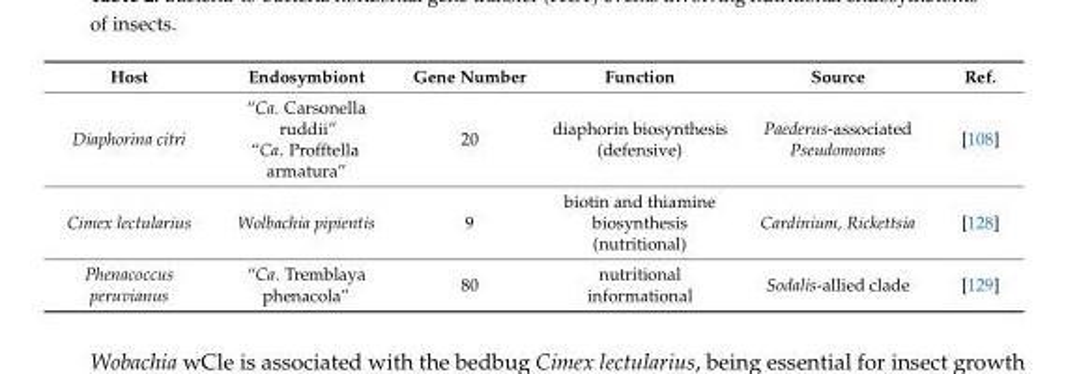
<table><thead><tr><td>Host</td><td>Endosymbiont</td><td>Gene Number</td><td>Function</td><td>Source</td><td>Ref.</td></tr></thead><tbody><tr><td>Diaphorina citri</td><td>“Ca. Carsonella ruddii” “Ca. Profftella armatura”</td><td>20</td><td>diaphorin biosynthesis (defensive)</td><td>Paederus-associated Pseudomonas</td><td>[108]</td></tr><tr><td>Cimex lectularius</td><td>Wolbachia pipientis</td><td>9</td><td>biotin and thiamine biosynthesis (nutritional)</td><td>Cardinium, Rickettsia</td><td>[128]</td></tr><tr><td>Phenacoccus peruvianus</td><td>“Ca. Tremblaya phenacola”</td><td>80</td><td>nutritional informational</td><td>Sodalis-allied clade</td><td>[129]</td></tr></tbody></table>